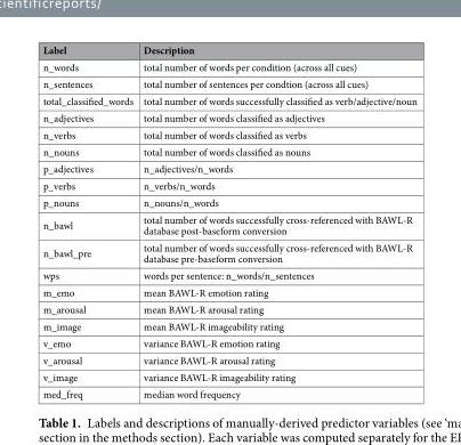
<table><thead><tr><td>Label</td><td>Description</td></tr></thead><tbody><tr><td>n_words</td><td>total number of words per condition (across all cues)</td></tr><tr><td>n_sentences</td><td>total number of sentences per condtion (across all cues)</td></tr><tr><td>total_classified_words</td><td>total number of words successfully classified as verb/adjective/noun</td></tr><tr><td>n_adjectives</td><td>total number of words classified as adjectives</td></tr><tr><td>n_verbs</td><td>total number of words classified as verbs</td></tr><tr><td>n_nouns</td><td>total number of words classified as nouns</td></tr><tr><td>p_adjectives</td><td>n_adjectives/n_words</td></tr><tr><td>p_verbs</td><td>n_verbs/n_words</td></tr><tr><td>p_nouns</td><td>n_nouns/n_words</td></tr><tr><td>n_bawl</td><td>total number of words successfully cross-referenced with BAWL-R database post-baseform conversion</td></tr><tr><td>n_bawl_pre</td><td>total number of words successfully cross-referenced with BAWL-R database pre-baseform conversion</td></tr><tr><td>wps</td><td>words per sentence: n_words/n_sentences</td></tr><tr><td>m_emo</td><td>mean BAWL-R emotion rating</td></tr><tr><td>m_arousal</td><td>mean BAWL-R arousal rating</td></tr><tr><td>m_image</td><td>mean BAWL-R imageability rating</td></tr><tr><td>v_emo</td><td>variance BAWL-R emotion rating</td></tr><tr><td>v_arousal</td><td>variance BAWL-R arousal rating</td></tr><tr><td>v_image</td><td>variance BAWL-R imageability rating</td></tr><tr><td>med_freq</td><td>median word frequency</td></tr></tbody></table>